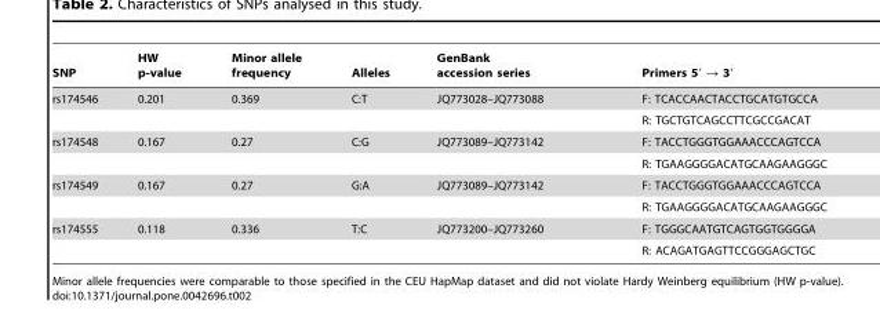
<table><thead><tr><td>SNP</td><td>HW p-value</td><td>Minor allele frequency</td><td>Alleles</td><td>GenBank accession series</td><td>Primers 5′ → 3′</td></tr></thead><tbody><tr><td rowspan="2">rs174546</td><td>0.201</td><td>0.369</td><td>C:T</td><td>JQ773028–JQ773088</td><td>F: TCACCAACTACCTGCATGTGCCA</td></tr><tr><td></td><td></td><td></td><td></td><td>R: TGCTGTCAGCCTTCGCCGACAT</td></tr><tr><td rowspan="2">rs174548</td><td>0.167</td><td>0.27</td><td>C:G</td><td>JQ773089–JQ773142</td><td>F: TACCTGGGTGGAAACCCAGTCCA</td></tr><tr><td></td><td></td><td></td><td></td><td>R: TGAAGGGGACATGCAAGAAGGGC</td></tr><tr><td rowspan="2">rs174549</td><td>0.167</td><td>0.27</td><td>G:A</td><td>JQ773089–JQ773142</td><td>F: TACCTGGGTGGAAACCCAGTCCA</td></tr><tr><td></td><td></td><td></td><td></td><td>R: TGAAGGGGACATGCAAGAAGGGC</td></tr><tr><td rowspan="2">rs174555</td><td>0.118</td><td>0.336</td><td>T:C</td><td>JQ773200–JQ773260</td><td>F: TGGGCAATGTCAGTGGTGGGGA</td></tr><tr><td></td><td></td><td></td><td></td><td>R: ACAGATGAGTTCCGGGAGCTGC</td></tr></tbody></table>